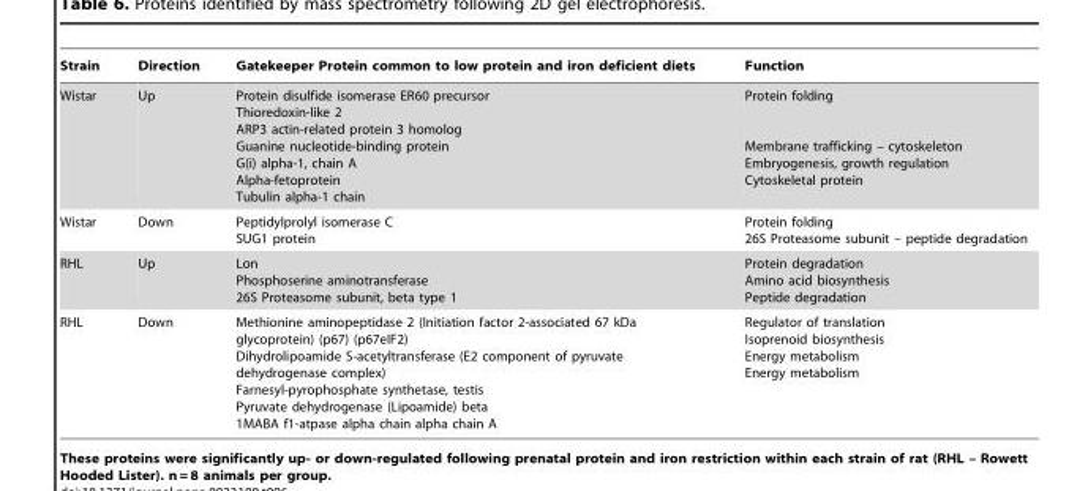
<table><thead><tr><td>Strain</td><td>Direction</td><td>Gatekeeper Protein common to low protein and iron deficient diets</td><td>Function</td></tr></thead><tbody><tr><td>Wistar</td><td>Up</td><td>Protein disulfide isomerase ER60 precursor Thioredoxin-like 2 ARP3 actin-related protein 3 homolog Guanine nucleotide-binding protein G(i) alpha-1, chain A Alpha-fetoprotein Tubulin alpha-1 chain</td><td>Protein folding Membrane trafficking – cytoskeleton Embryogenesis, growth regulation Cytoskeletal protein</td></tr><tr><td>Wistar</td><td>Down</td><td>Peptidylprolyl isomerase C SUG1 protein</td><td>Protein folding 26S Proteasome subunit – peptide degradation</td></tr><tr><td>RHL</td><td>Up</td><td>Lon Phosphoserine aminotransferase 26S Proteasome subunit, beta type 1</td><td>Protein degradation Amino acid biosynthesis Peptide degradation</td></tr><tr><td>RHL</td><td>Down</td><td>Methionine aminopeptidase 2 (Initiation factor 2-associated 67 kDa glycoprotein) (p67) (p67eIF2) Dihydrolipoamide S-acetyltransferase (E2 component of pyruvate dehydrogenase complex) Farnesyl-pyrophosphate synthetase, testis Pyruvate dehydrogenase (Lipoamide) beta 1MABA f1-atpase alpha chain alpha chain A</td><td>Regulator of translation Isoprenoid biosynthesis Energy metabolism Energy metabolism</td></tr></tbody></table>